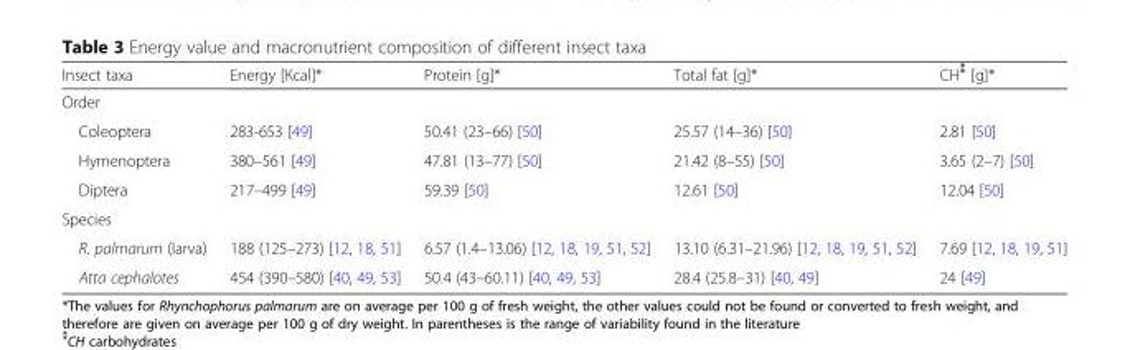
<table><thead><tr><td>Insect taxa</td><td>Energy [Kcal]*</td><td>Protein [g]*</td><td>Total fat [g]*</td><td>CH<sup>⁑</sup> [g]*</td></tr></thead><tbody><tr><td colspan="5">Order</td></tr><tr><td>Coleoptera</td><td>283-653 [49]</td><td>50.41 (23–66) [50]</td><td>25.57 (14–36) [50]</td><td>2.81 [50]</td></tr><tr><td>Hymenoptera</td><td>380–561 [49]</td><td>47.81 (13–77) [50]</td><td>21.42 (8–55) [50]</td><td>3.65 (2–7) [50]</td></tr><tr><td>Diptera</td><td>217–499 [49]</td><td>59.39 [50]</td><td>12.61 [50]</td><td>12.04 [50]</td></tr><tr><td colspan="5">Species</td></tr><tr><td>R. palmarum (larva)</td><td>188 (125–273) [12, 18, 51]</td><td>6.57 (1.4–13.06) [12, 18, 19, 51, 52]</td><td>13.10 (6.31–21.96) [12, 18, 19, 51, 52]</td><td>7.69 [12, 18, 19, 51]</td></tr><tr><td>Atta cephalotes</td><td>454 (390–580) [40, 49, 53]</td><td>50.4 (43–60.11) [40, 49, 53]</td><td>28.4 (25.8–31) [40, 49]</td><td>24 [49]</td></tr></tbody></table>